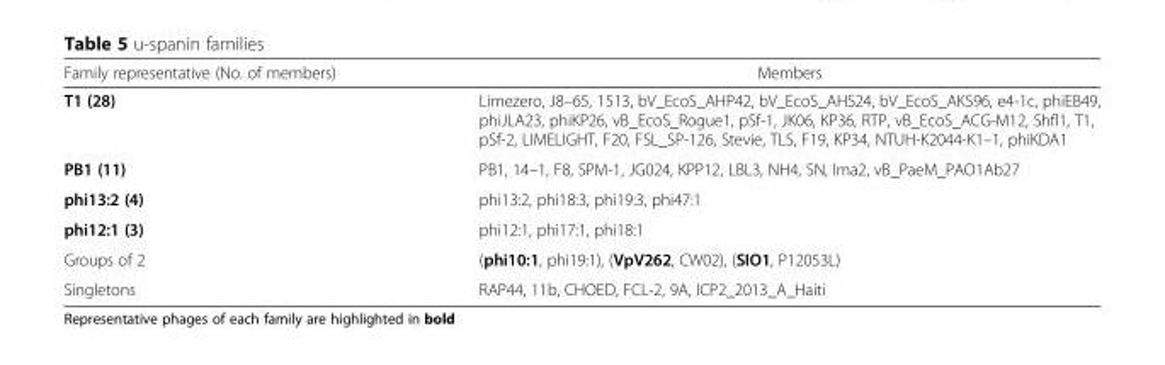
<table><thead><tr><td>Family representative (No. of members)</td><td>Members</td></tr></thead><tbody><tr><td>T1 (28)</td><td>Limezero, J8–65, 1513, bV_EcoS_AHP42, bV_EcoS_AHS24, bV_EcoS_AKS96, e4-1c, phiEB49, phiJLA23, phiKP26, vB_EcoS_Rogue1, pSf-1, JK06, KP36, RTP, vB_EcoS_ACG-M12, Shfl1, T1, pSf-2, LIMELIGHT, F20, FSL_SP-126, Stevie, TLS, F19, KP34, NTUH-K2044-K1–1, phiKDA1</td></tr><tr><td>PB1 (11)</td><td>PB1, 14–1, F8, SPM-1, JG024, KPP12, LBL3, NH4, SN, lma2, vB_PaeM_PAO1Ab27</td></tr><tr><td>phi13:2 (4)</td><td>phi13:2, phi18:3, phi19:3, phi47:1</td></tr><tr><td>phi12:1 (3)</td><td>phi12:1, phi17:1, phi18:1</td></tr><tr><td>Groups of 2</td><td>(phi10:1, phi19:1), (VpV262, CW02), (SIO1, P12053L)</td></tr><tr><td>Singletons</td><td>RAP44, 11b, CHOED, FCL-2, 9A, ICP2_2013_A_Haiti</td></tr></tbody></table>